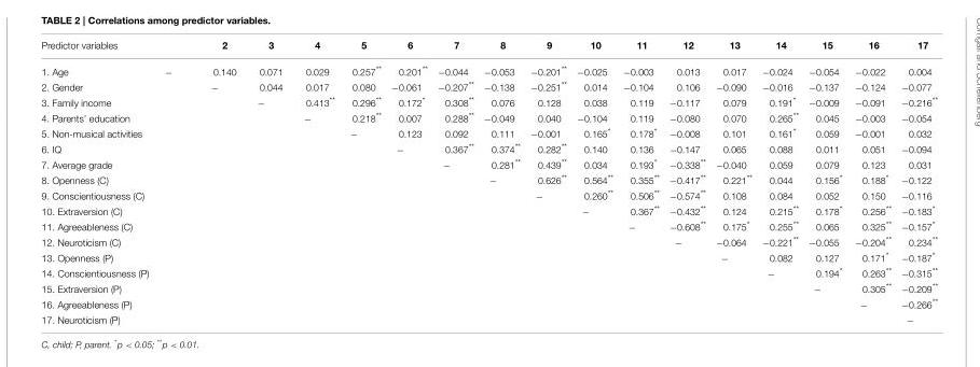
<table><thead><tr><td>Predictor variables</td><td></td><td>2</td><td>3</td><td>4</td><td>5</td><td>6</td><td>7</td><td>8</td><td>9</td><td>10</td><td>11</td><td>12</td><td>13</td><td>14</td><td>15</td><td>16</td><td>17</td></tr></thead><tbody><tr><td>1. Age</td><td>−</td><td>0.140</td><td>0.071</td><td>0.029</td><td>0.257**</td><td>0.201**</td><td>−0.044</td><td>−0.053</td><td>−0.201**</td><td>−0.025</td><td>−0.003</td><td>0.013</td><td>0.017</td><td>−0.024</td><td>−0.054</td><td>−0.022</td><td>0.004</td></tr><tr><td>2. Gender</td><td></td><td>−</td><td>0.044</td><td>0.017</td><td>0.080</td><td>−0.061</td><td>−0.207**</td><td>−0.138</td><td>−0.251**</td><td>0.014</td><td>−0.104</td><td>0.106</td><td>−0.090</td><td>−0.016</td><td>−0.137</td><td>−0.124</td><td>−0.077</td></tr><tr><td>3. Family income</td><td></td><td></td><td>−</td><td>0.413**</td><td>0.296**</td><td>0.172*</td><td>0.308**</td><td>0.076</td><td>0.128</td><td>0.038</td><td>0.119</td><td>−0.117</td><td>0.079</td><td>0.191*</td><td>−0.009</td><td>−0.091</td><td>−0.216**</td></tr><tr><td>4. Parents’ education</td><td></td><td></td><td></td><td>−</td><td>0.218**</td><td>0.007</td><td>0.288**</td><td>−0.049</td><td>0.040</td><td>−0.104</td><td>0.119</td><td>−0.080</td><td>0.070</td><td>0.265**</td><td>0.045</td><td>−0.003</td><td>−0.054</td></tr><tr><td>5. Non-musical activities</td><td></td><td></td><td></td><td></td><td>−</td><td>0.123</td><td>0.092</td><td>0.111</td><td>−0.001</td><td>0.165*</td><td>0.178*</td><td>−0.008</td><td>0.101</td><td>0.161*</td><td>0.059</td><td>−0.001</td><td>0.032</td></tr><tr><td>6. IQ</td><td></td><td></td><td></td><td></td><td></td><td>−</td><td>0.367**</td><td>0.374**</td><td>0.282**</td><td>0.140</td><td>0.136</td><td>−0.147</td><td>0.065</td><td>0.088</td><td>0.011</td><td>0.051</td><td>−0.094</td></tr><tr><td>7. Average grade</td><td></td><td></td><td></td><td></td><td></td><td></td><td>−</td><td>0.281**</td><td>0.439**</td><td>0.034</td><td>0.193*</td><td>−0.338**</td><td>−0.040</td><td>0.059</td><td>0.079</td><td>0.123</td><td>0.031</td></tr><tr><td>8. Openness (C)</td><td></td><td></td><td></td><td></td><td></td><td></td><td></td><td>−</td><td>0.626**</td><td>0.564**</td><td>0.355**</td><td>−0.417**</td><td>0.221**</td><td>0.044</td><td>0.156*</td><td>0.188*</td><td>−0.122</td></tr><tr><td>9. Conscientiousness (C)</td><td></td><td></td><td></td><td></td><td></td><td></td><td></td><td></td><td>−</td><td>0.260**</td><td>0.506**</td><td>−0.574**</td><td>0.108</td><td>0.084</td><td>0.052</td><td>0.150</td><td>−0.116</td></tr><tr><td>10. Extraversion (C)</td><td></td><td></td><td></td><td></td><td></td><td></td><td></td><td></td><td></td><td>−</td><td>0.367**</td><td>−0.432**</td><td>0.124</td><td>0.215**</td><td>0.178*</td><td>0.256**</td><td>−0.183*</td></tr><tr><td>11. Agreeableness (C)</td><td></td><td></td><td></td><td></td><td></td><td></td><td></td><td></td><td></td><td></td><td>−</td><td>−0.608**</td><td>0.175*</td><td>0.255**</td><td>0.065</td><td>0.325**</td><td>−0.157*</td></tr><tr><td>12. Neuroticism (C)</td><td></td><td></td><td></td><td></td><td></td><td></td><td></td><td></td><td></td><td></td><td></td><td>−</td><td>−0.064</td><td>−0.221**</td><td>−0.055</td><td>−0.204**</td><td>0.234**</td></tr><tr><td>13. Openness (P)</td><td></td><td></td><td></td><td></td><td></td><td></td><td></td><td></td><td></td><td></td><td></td><td></td><td>−</td><td>0.082</td><td>0.127</td><td>0.171*</td><td>−0.187*</td></tr><tr><td>14. Conscientiousness (P)</td><td></td><td></td><td></td><td></td><td></td><td></td><td></td><td></td><td></td><td></td><td></td><td></td><td></td><td>−</td><td>0.194*</td><td>0.263**</td><td>−0.315**</td></tr><tr><td>15. Extraversion (P)</td><td></td><td></td><td></td><td></td><td></td><td></td><td></td><td></td><td></td><td></td><td></td><td></td><td></td><td></td><td>−</td><td>0.305**</td><td>−0.209**</td></tr><tr><td>16. Agreeableness (P)</td><td></td><td></td><td></td><td></td><td></td><td></td><td></td><td></td><td></td><td></td><td></td><td></td><td></td><td></td><td></td><td>−</td><td>−0.266**</td></tr><tr><td>17. Neuroticism (P)</td><td></td><td></td><td></td><td></td><td></td><td></td><td></td><td></td><td></td><td></td><td></td><td></td><td></td><td></td><td></td><td></td><td>−</td></tr></tbody></table>